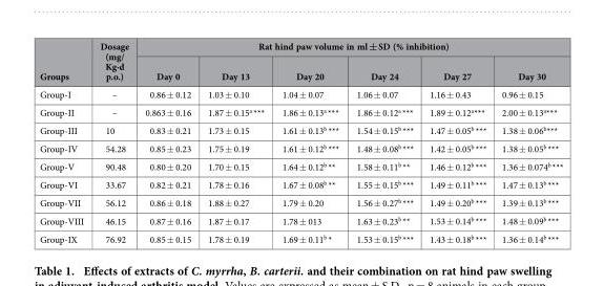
<table><thead><tr><td rowspan="2">Groups</td><td rowspan="2">Dosage (mg/ Kg·d p.o.)</td><td colspan="6">Rat hind paw volume in ml ± SD (% inhibition)</td></tr><tr><td>Day 0</td><td>Day 13</td><td>Day 20</td><td>Day 24</td><td>Day 27</td><td>Day 30</td></tr></thead><tbody><tr><td>Group-I</td><td>–</td><td>0.86 ± 0.12</td><td>1.03 ± 0.10</td><td>1.04 ± 0.07</td><td>1.06 ± 0.07</td><td>1.16 ± 0.43</td><td>0.96 ± 0.15</td></tr><tr><td>Group-II</td><td>–</td><td>0.863 ± 0.16</td><td>1.87 ± 0.15a ***</td><td>1.86 ± 0.13a ***</td><td>1.86 ± 0.12a ***</td><td>1.89 ± 0.12a***</td><td>2.00 ± 0.13a***</td></tr><tr><td>Group-III</td><td>10</td><td>0.83 ± 0.21</td><td>1.73 ± 0.15</td><td>1.61 ± 0.13b ***</td><td>1.54 ± 0.15b ***</td><td>1.47 ± 0.05b ***</td><td>1.38 ± 0.06b***</td></tr><tr><td>Group-IV</td><td>54.28</td><td>0.85 ± 0.23</td><td>1.75 ± 0.19</td><td>1.61 ± 0.12b ***</td><td>1.48 ± 0.08b ***</td><td>1.42 ± 0.05b ***</td><td>1.38 ± 0.05b ***</td></tr><tr><td>Group-V</td><td>90.48</td><td>0.80 ± 0.20</td><td>1.70 ± 0.15</td><td>1.64 ± 0.12b **</td><td>1.58 ± 0.11b **</td><td>1.46 ± 0.12b ***</td><td>1.36 ± 0.074b ***</td></tr><tr><td>Group-VI</td><td>33.67</td><td>0.82 ± 0.21</td><td>1.78 ± 0.16</td><td>1.67 ± 0.08b **</td><td>1.55 ± 0.15b ***</td><td>1.49 ± 0.11b ***</td><td>1.47 ± 0.13b ***</td></tr><tr><td>Group-VII</td><td>56.12</td><td>0.86 ± 0.18</td><td>1.88 ± 0.27</td><td>1.79 ± 0.20</td><td>1.56 ± 0.27b ***</td><td>1.49 ± 0.20b ***</td><td>1.39 ± 0.13b ***</td></tr><tr><td>Group-VIII</td><td>46.15</td><td>0.87 ± 0.16</td><td>1.87 ± 0.17</td><td>1.78 ± 013</td><td>1.63 ± 0.23b **</td><td>1.53 ± 0.14b ***</td><td>1.48 ± 0.09b ***</td></tr><tr><td>Group-IX</td><td>76.92</td><td>0.85 ± 0.15</td><td>1.78 ± 0.19</td><td>1.69 ± 0.11b *</td><td>1.53 ± 0.15b ***</td><td>1.43 ± 0.18b ***</td><td>1.36 ± 0.14b ***</td></tr></tbody></table>